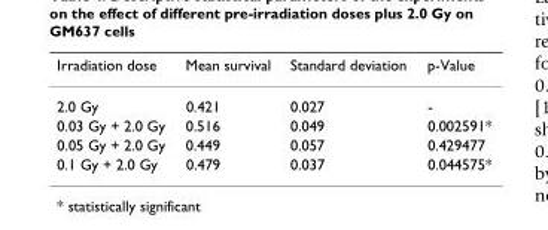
<table><thead><tr><td>Irradiation dose</td><td>Mean survival</td><td>Standard deviation</td><td>p-Value</td></tr></thead><tbody><tr><td>2.0 Gy</td><td>0.421</td><td>0.027</td><td>-</td></tr><tr><td>0.03 Gy + 2.0 Gy</td><td>0.516</td><td>0.049</td><td>0.002591*</td></tr><tr><td>0.05 Gy + 2.0 Gy</td><td>0.449</td><td>0.057</td><td>0.429477</td></tr><tr><td>0.1 Gy + 2.0 Gy</td><td>0.479</td><td>0.037</td><td>0.044575*</td></tr></tbody></table>